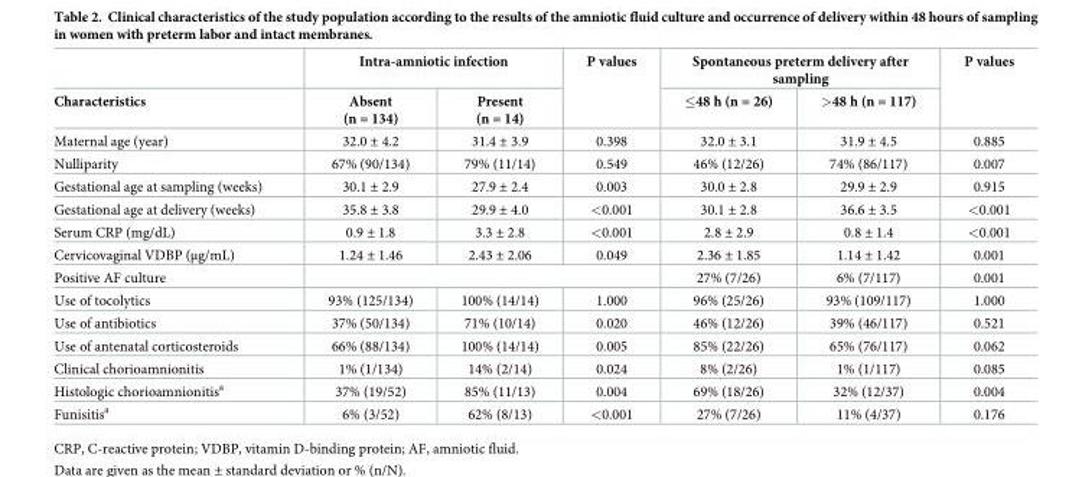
<table><thead><tr><td rowspan="2">Characteristics</td><td colspan="2">Intra-amniotic infection</td><td rowspan="2">P values</td><td colspan="2">Spontaneous preterm delivery after sampling</td><td rowspan="2">P values</td></tr><tr><td>Absent (n = 134)</td><td>Present (n = 14)</td><td>≤48 h (n = 26)</td><td>&gt;48 h (n = 117)</td></tr></thead><tbody><tr><td>Maternal age (year)</td><td>32.0 ± 4.2</td><td>31.4 ± 3.9</td><td>0.398</td><td>32.0 ± 3.1</td><td>31.9 ± 4.5</td><td>0.885</td></tr><tr><td>Nulliparity</td><td>67% (90/134)</td><td>79% (11/14)</td><td>0.549</td><td>46% (12/26)</td><td>74% (86/117)</td><td>0.007</td></tr><tr><td>Gestational age at sampling (weeks)</td><td>30.1 ± 2.9</td><td>27.9 ± 2.4</td><td>0.003</td><td>30.0 ± 2.8</td><td>29.9 ± 2.9</td><td>0.915</td></tr><tr><td>Gestational age at delivery (weeks)</td><td>35.8 ± 3.8</td><td>29.9 ± 4.0</td><td>&lt;0.001</td><td>30.1 ± 2.8</td><td>36.6 ± 3.5</td><td>&lt;0.001</td></tr><tr><td>Serum CRP (mg/dL)</td><td>0.9 ± 1.8</td><td>3.3 ± 2.8</td><td>&lt;0.001</td><td>2.8 ± 2.9</td><td>0.8 ± 1.4</td><td>&lt;0.001</td></tr><tr><td>Cervicovaginal VDBP (μg/mL)</td><td>1.24 ± 1.46</td><td>2.43 ± 2.06</td><td>0.049</td><td>2.36 ± 1.85</td><td>1.14 ± 1.42</td><td>0.001</td></tr><tr><td>Positive AF culture</td><td colspan="3"></td><td>27% (7/26)</td><td>6% (7/117)</td><td>0.001</td></tr><tr><td>Use of tocolytics</td><td>93% (125/134)</td><td>100% (14/14)</td><td>1.000</td><td>96% (25/26)</td><td>93% (109/117)</td><td>1.000</td></tr><tr><td>Use of antibiotics</td><td>37% (50/134)</td><td>71% (10/14)</td><td>0.020</td><td>46% (12/26)</td><td>39% (46/117)</td><td>0.521</td></tr><tr><td>Use of antenatal corticosteroids</td><td>66% (88/134)</td><td>100% (14/14)</td><td>0.005</td><td>85% (22/26)</td><td>65% (76/117)</td><td>0.062</td></tr><tr><td>Clinical chorioamnionitis</td><td>1% (1/134)</td><td>14% (2/14)</td><td>0.024</td><td>8% (2/26)</td><td>1% (1/117)</td><td>0.085</td></tr><tr><td>Histologic chorioamnionitis<sup>a</sup></td><td>37% (19/52)</td><td>85% (11/13)</td><td>0.004</td><td>69% (18/26)</td><td>32% (12/37)</td><td>0.004</td></tr><tr><td>Funisitis<sup>a</sup></td><td>6% (3/52)</td><td>62% (8/13)</td><td>&lt;0.001</td><td>27% (7/26)</td><td>11% (4/37)</td><td>0.176</td></tr></tbody></table>